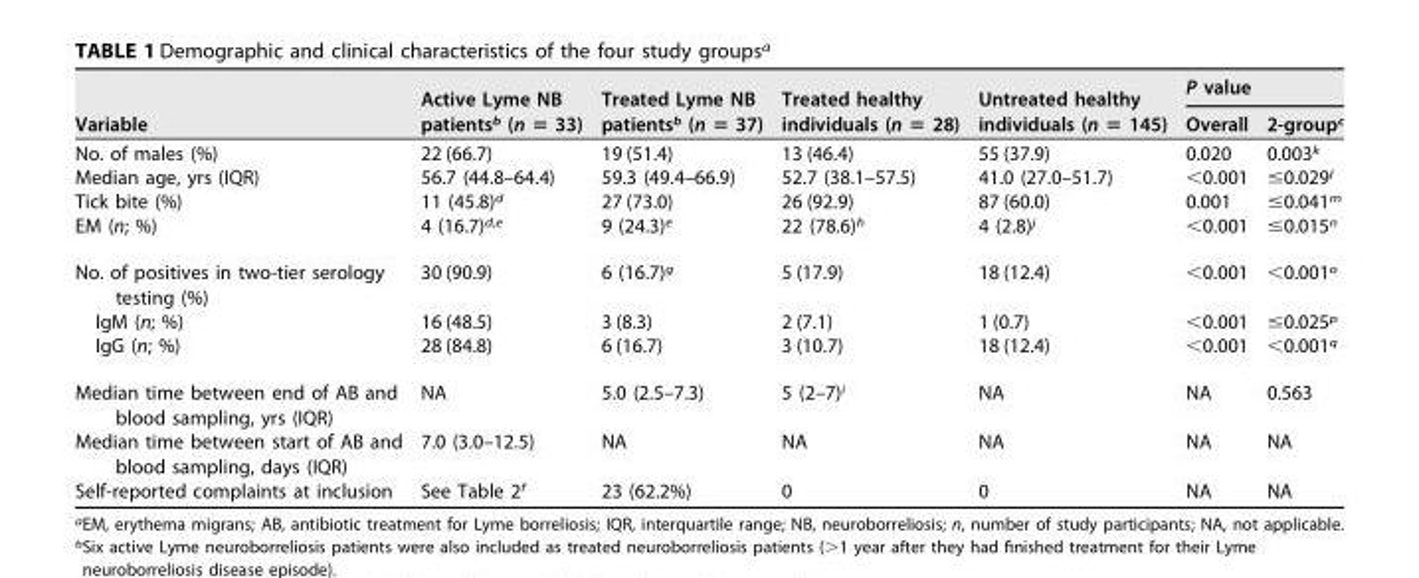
<table><thead><tr><td rowspan="2">Variable</td><td rowspan="2">Active Lyme NB patients<sup>b</sup> (n = 33)</td><td rowspan="2">Treated Lyme NB patients<sup>b</sup> (n = 37)</td><td rowspan="2">Treated healthy individuals (n = 28)</td><td rowspan="2">Untreated healthy individuals (n = 145)</td><td colspan="2">P value</td></tr><tr><td>Overall</td><td>2-group<sup>c</sup></td></tr></thead><tbody><tr><td>No. of males (%)</td><td>22 (66.7)</td><td>19 (51.4)</td><td>13 (46.4)</td><td>55 (37.9)</td><td>0.020</td><td>0.003<sup>k</sup></td></tr><tr><td>Median age, yrs (IQR)</td><td>56.7 (44.8–64.4)</td><td>59.3 (49.4–66.9)</td><td>52.7 (38.1–57.5)</td><td>41.0 (27.0–51.7)</td><td>&lt;0.001</td><td>≤0.029<sup>l</sup></td></tr><tr><td>Tick bite (%)</td><td>11 (45.8)<sup>d</sup></td><td>27 (73.0)</td><td>26 (92.9)</td><td>87 (60.0)</td><td>0.001</td><td>≤0.041<sup>m</sup></td></tr><tr><td>EM (n; %)</td><td>4 (16.7)<sup>d,e</sup></td><td>9 (24.3)<sup>e</sup></td><td>22 (78.6)<sup>h</sup></td><td>4 (2.8)<sup>j</sup></td><td>&lt;0.001</td><td>≤0.015<sup>n</sup></td></tr><tr><td>No. of positives in two-tier serology testing (%)</td><td>30 (90.9)</td><td>6 (16.7)<sup>g</sup></td><td>5 (17.9)</td><td>18 (12.4)</td><td>&lt;0.001</td><td>&lt;0.001<sup>o</sup></td></tr><tr><td>IgM (n; %)</td><td>16 (48.5)</td><td>3 (8.3)</td><td>2 (7.1)</td><td>1 (0.7)</td><td>&lt;0.001</td><td>≤0.025<sup>p</sup></td></tr><tr><td>IgG (n; %)</td><td>28 (84.8)</td><td>6 (16.7)</td><td>3 (10.7)</td><td>18 (12.4)</td><td>&lt;0.001</td><td>&lt;0.001<sup>q</sup></td></tr><tr><td>Median time between end of AB and blood sampling, yrs (IQR)</td><td>NA</td><td>5.0 (2.5–7.3)</td><td>5 (2–7)<sup>i</sup></td><td>NA</td><td>NA</td><td>0.563</td></tr><tr><td>Median time between start of AB and blood sampling, days (IQR)</td><td>7.0 (3.0–12.5)</td><td>NA</td><td>NA</td><td>NA</td><td>NA</td><td>NA</td></tr><tr><td>Self-reported complaints at inclusion</td><td>See Table 2<sup>f</sup></td><td>23 (62.2%)</td><td>0</td><td>0</td><td>NA</td><td>NA</td></tr></tbody></table>